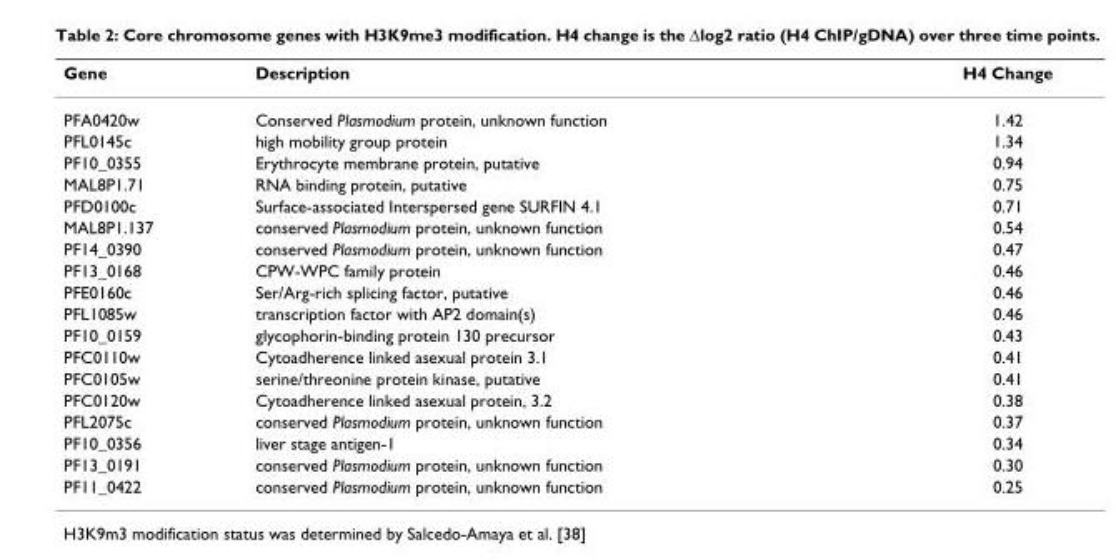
<table><thead><tr><td>Gene</td><td>Description</td><td>H4 Change</td></tr></thead><tbody><tr><td>PFA0420w</td><td>Conserved Plasmodium protein, unknown function</td><td>1.42</td></tr><tr><td>PFL0145c</td><td>high mobility group protein</td><td>1.34</td></tr><tr><td>PF10_0355</td><td>Erythrocyte membrane protein, putative</td><td>0.94</td></tr><tr><td>MAL8P1.71</td><td>RNA binding protein, putative</td><td>0.75</td></tr><tr><td>PFD0100c</td><td>Surface-associated Interspersed gene SURFIN 4.1</td><td>0.71</td></tr><tr><td>MAL8P1.137</td><td>conserved Plasmodium protein, unknown function</td><td>0.54</td></tr><tr><td>PF14_0390</td><td>conserved Plasmodium protein, unknown function</td><td>0.47</td></tr><tr><td>PF13_0168</td><td>CPW-WPC family protein</td><td>0.46</td></tr><tr><td>PFE0160c</td><td>Ser/Arg-rich splicing factor, putative</td><td>0.46</td></tr><tr><td>PFL1085w</td><td>transcription factor with AP2 domain(s)</td><td>0.46</td></tr><tr><td>PF10_0159</td><td>glycophorin-binding protein 130 precursor</td><td>0.43</td></tr><tr><td>PFC0110w</td><td>Cytoadherence linked asexual protein 3.1</td><td>0.41</td></tr><tr><td>PFC0105w</td><td>serine/threonine protein kinase, putative</td><td>0.41</td></tr><tr><td>PFC0120w</td><td>Cytoadherence linked asexual protein, 3.2</td><td>0.38</td></tr><tr><td>PFL2075c</td><td>conserved Plasmodium protein, unknown function</td><td>0.37</td></tr><tr><td>PF10_0356</td><td>liver stage antigen-1</td><td>0.34</td></tr><tr><td>PF13_0191</td><td>conserved Plasmodium protein, unknown function</td><td>0.30</td></tr><tr><td>PF11_0422</td><td>conserved Plasmodium protein, unknown function</td><td>0.25</td></tr></tbody></table>